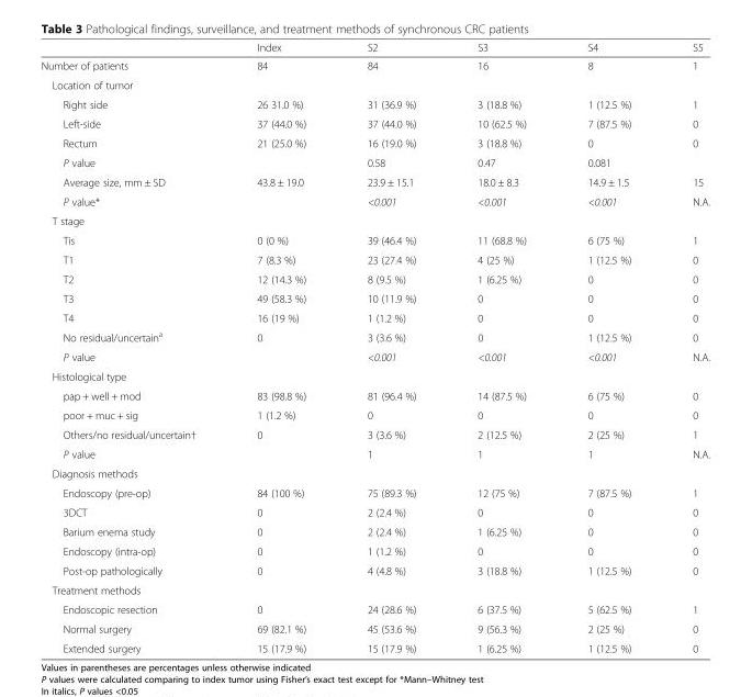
<table><thead><tr><td></td><td>Index</td><td>S2</td><td>S3</td><td>S4</td><td>S5</td></tr></thead><tbody><tr><td>Number of patients</td><td>84</td><td>84</td><td>16</td><td>8</td><td>1</td></tr><tr><td colspan="6">Location of tumor</td></tr><tr><td>Right side</td><td>26 31.0 %)</td><td>31 (36.9 %)</td><td>3 (18.8 %)</td><td>1 (12.5 %)</td><td>1</td></tr><tr><td>Left-side</td><td>37 (44.0 %)</td><td>37 (44.0 %)</td><td>10 (62.5 %)</td><td>7 (87.5 %)</td><td>0</td></tr><tr><td>Rectum</td><td>21 (25.0 %)</td><td>16 (19.0 %)</td><td>3 (18.8 %)</td><td>0</td><td>0</td></tr><tr><td>P value</td><td></td><td>0.58</td><td>0.47</td><td>0.081</td><td></td></tr><tr><td>Average size, mm ± SD</td><td>43.8 ± 19.0</td><td>23.9 ± 15.1</td><td>18.0 ± 8.3</td><td>14.9 ± 1.5</td><td>15</td></tr><tr><td>P value*</td><td></td><td>&lt;0.001</td><td>&lt;0.001</td><td>&lt;0.001</td><td>N.A.</td></tr><tr><td colspan="6">T stage</td></tr><tr><td>Tis</td><td>0 (0 %)</td><td>39 (46.4 %)</td><td>11 (68.8 %)</td><td>6 (75 %)</td><td>1</td></tr><tr><td>T1</td><td>7 (8.3 %)</td><td>23 (27.4 %)</td><td>4 (25 %)</td><td>1 (12.5 %)</td><td>0</td></tr><tr><td>T2</td><td>12 (14.3 %)</td><td>8 (9.5 %)</td><td>1 (6.25 %)</td><td>0</td><td>0</td></tr><tr><td>T3</td><td>49 (58.3 %)</td><td>10 (11.9 %)</td><td>0</td><td>0</td><td>0</td></tr><tr><td>T4</td><td>16 (19 %)</td><td>1 (1.2 %)</td><td>0</td><td>0</td><td>0</td></tr><tr><td>No residual/uncertain<sup>a</sup></td><td>0</td><td>3 (3.6 %)</td><td>0</td><td>1 (12.5 %)</td><td>0</td></tr><tr><td>P value</td><td></td><td>&lt;0.001</td><td>&lt;0.001</td><td>&lt;0.001</td><td>N.A.</td></tr><tr><td colspan="6">Histological type</td></tr><tr><td>pap + well + mod</td><td>83 (98.8 %)</td><td>81 (96.4 %)</td><td>14 (87.5 %)</td><td>6 (75 %)</td><td>0</td></tr><tr><td>poor + muc + sig</td><td>1 (1.2 %)</td><td>0</td><td>0</td><td>0</td><td>0</td></tr><tr><td>Others/no residual/uncertain†</td><td>0</td><td>3 (3.6 %)</td><td>2 (12.5 %)</td><td>2 (25 %)</td><td>1</td></tr><tr><td>P value</td><td></td><td>1</td><td>1</td><td>1</td><td>N.A.</td></tr><tr><td colspan="6">Diagnosis methods</td></tr><tr><td>Endoscopy (pre-op)</td><td>84 (100 %)</td><td>75 (89.3 %)</td><td>12 (75 %)</td><td>7 (87.5 %)</td><td>1</td></tr><tr><td>3DCT</td><td>0</td><td>2 (2.4 %)</td><td>0</td><td>0</td><td>0</td></tr><tr><td>Barium enema study</td><td>0</td><td>2 (2.4 %)</td><td>1 (6.25 %)</td><td>0</td><td>0</td></tr><tr><td>Endoscopy (intra-op)</td><td>0</td><td>1 (1.2 %)</td><td>0</td><td>0</td><td>0</td></tr><tr><td>Post-op pathologically</td><td>0</td><td>4 (4.8 %)</td><td>3 (18.8 %)</td><td>1 (12.5 %)</td><td>0</td></tr><tr><td colspan="6">Treatment methods</td></tr><tr><td>Endoscopic resection</td><td>0</td><td>24 (28.6 %)</td><td>6 (37.5 %)</td><td>5 (62.5 %)</td><td>1</td></tr><tr><td>Normal surgery</td><td>69 (82.1 %)</td><td>45 (53.6 %)</td><td>9 (56.3 %)</td><td>2 (25 %)</td><td>0</td></tr><tr><td>Extended surgery</td><td>15 (17.9 %)</td><td>15 (17.9 %)</td><td>1 (6.25 %)</td><td>1 (12.5 %)</td><td>0</td></tr></tbody></table>